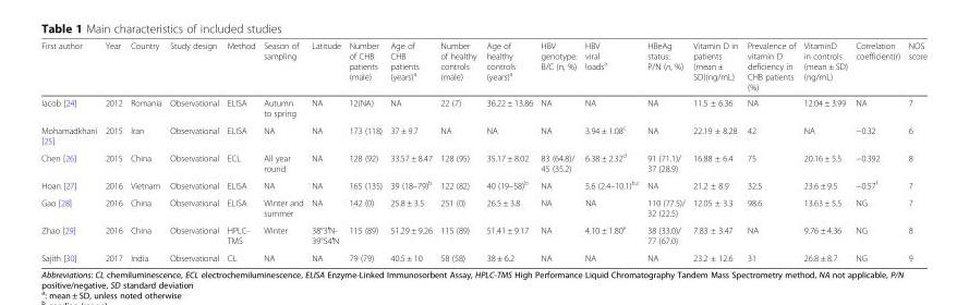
<table><thead><tr><td>First author</td><td>Year</td><td>Country</td><td>Study design</td><td>Method</td><td>Season of sampling</td><td>Latitude</td><td>Number of CHB patients (male)</td><td>Age of CHB patients (years)<sup>a</sup></td><td>Number of healthy controls (male)</td><td>Age of healthy controls (years)<sup>a</sup></td><td>HBV genotype: B/C (n, %)</td><td>HBV viral loads<sup>a</sup></td><td>HBeAg status: P/N (n, %)</td><td>Vitamin D in patients (mean ± SD)(ng/mL)</td><td>Prevalence of vitamin D deficiency in CHB patients (%)</td><td>VitaminD in controls (mean ± SD) (ng/mL)</td><td>Correlation coefficient(r)</td><td>NOS score</td></tr></thead><tbody><tr><td>Iacob [24]</td><td>2012</td><td>Romania</td><td>Observational</td><td>ELISA</td><td>Autumn to spring</td><td>NA</td><td>12(NA)</td><td>NA</td><td>22 (7)</td><td>36.22 ± 13.86</td><td>NA</td><td>NA</td><td>NA</td><td>11.5 ± 6.36</td><td>NA</td><td>12.04 ± 3.99</td><td>NA</td><td>7</td></tr><tr><td>Mohamadkhani [25]</td><td>2015</td><td>Iran</td><td>Observational</td><td>ELISA</td><td>NA</td><td>NA</td><td>173 (118)</td><td>37 ± 9.7</td><td>NA</td><td>NA</td><td>NA</td><td>3.94 ± 1.08<sup>c</sup></td><td>NA</td><td>22.19 ± 8.28</td><td>42</td><td>NA</td><td>−0.32</td><td>6</td></tr><tr><td>Chen [26]</td><td>2015</td><td>China</td><td>Observational</td><td>ECL</td><td>All year round</td><td>NA</td><td>128 (92)</td><td>33.57 ± 8.47</td><td>128 (95)</td><td>35.17 ± 8.02</td><td>83 (64.8)/ 45 (35.2)</td><td>6.38 ± 2.32<sup>d</sup></td><td>91 (71.1)/ 37 (28.9)</td><td>16.88 ± 6.4</td><td>75</td><td>20.16 ± 5.5</td><td>−0.392</td><td>8</td></tr><tr><td>Hoan [27]</td><td>2016</td><td>Vietnam</td><td>Observational</td><td>ELISA</td><td>NA</td><td>NA</td><td>165 (135)</td><td>39 (18–79)<sup>b</sup></td><td>122 (82)</td><td>40 (19–58)<sup>b</sup></td><td>NA</td><td>5.6 (2.4–10.1)<sup>b,c</sup></td><td>NA</td><td>21.2 ± 8.9</td><td>32.5</td><td>23.6 ± 9.5</td><td>−0.57<sup>f</sup></td><td>7</td></tr><tr><td>Gao [28]</td><td>2016</td><td>China</td><td>Observational</td><td>ELISA</td><td>Winter and summer</td><td>NA</td><td>142 (0)</td><td>25.8 ± 3.5</td><td>251 (0)</td><td>26.5 ± 3.8</td><td>NA</td><td>NA</td><td>110 (77.5)/ 32 (22.5)</td><td>12.05 ± 3.3</td><td>98.6</td><td>13.63 ± 5.5</td><td>NG</td><td>7</td></tr><tr><td>Zhao [29]</td><td>2016</td><td>China</td><td>Observational</td><td>HPLC- TMS</td><td>Winter</td><td>38°3′N- 39°54′N</td><td>115 (89)</td><td>51.29 ± 9.26</td><td>115 (89)</td><td>51.41 ± 9.17</td><td>NA</td><td>4.10 ± 1.80<sup>e</sup></td><td>38 (33.0)/ 77 (67.0)</td><td>7.83 ± 3.47</td><td>NA</td><td>9.76 ± 4.36</td><td>NG</td><td>8</td></tr><tr><td>Sajith [30]</td><td>2017</td><td>India</td><td>Observational</td><td>CL</td><td>NA</td><td>NA</td><td>79 (79)</td><td>40.5 ± 10</td><td>58 (58)</td><td>38 ± 6.2</td><td>NA</td><td>NA</td><td>NA</td><td>23.2 ± 12.6</td><td>31</td><td>26.8 ± 8.7</td><td>NG</td><td>9</td></tr></tbody></table>